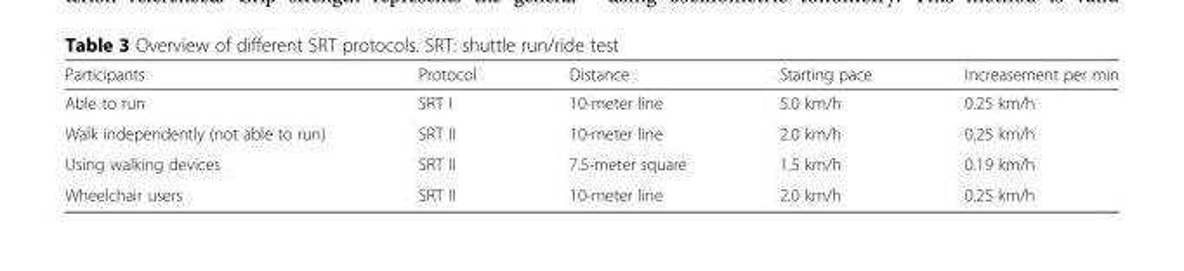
<table><thead><tr><td>Participants</td><td>Protocol</td><td>Distance</td><td>Starting pace</td><td>Increasement per min</td></tr></thead><tbody><tr><td>Able to run</td><td>SRT I</td><td>10-meter line</td><td>5.0 km/h</td><td>0.25 km/h</td></tr><tr><td>Walk independently (not able to run)</td><td>SRT II</td><td>10-meter line</td><td>2.0 km/h</td><td>0.25 km/h</td></tr><tr><td>Using walking devices</td><td>SRT II</td><td>7.5-meter square</td><td>1.5 km/h</td><td>0.19 km/h</td></tr><tr><td>Wheelchair users</td><td>SRT II</td><td>10-meter line</td><td>2.0 km/h</td><td>0.25 km/h</td></tr></tbody></table>